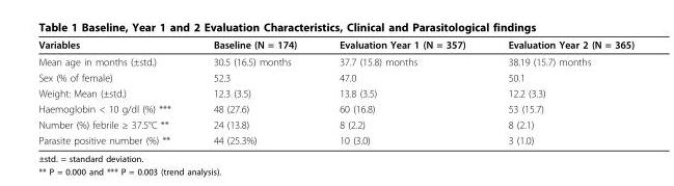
<table><thead><tr><td>Variables</td><td>Baseline (N = 174)</td><td>Evaluation Year 1 (N = 357)</td><td>Evaluation Year 2 (N = 365)</td></tr></thead><tbody><tr><td>Mean age in months (±std.)</td><td>30.5 (16.5) months</td><td>37.7 (15.8) months</td><td>38.19 (15.7) months</td></tr><tr><td>Sex (% of female)</td><td>52.3</td><td>47.0</td><td>50.1</td></tr><tr><td>Weight: Mean (±std.)</td><td>12.3 (3.5)</td><td>13.8 (3.5)</td><td>12.2 (3.3)</td></tr><tr><td>Haemoglobin &lt; 10 g/dl (%) ***</td><td>48 (27.6)</td><td>60 (16.8)</td><td>53 (15.7)</td></tr><tr><td>Number (%) febrile ≥ 37.5°C **</td><td>24 (13.8)</td><td>8 (2.2)</td><td>8 (2.1)</td></tr><tr><td>Parasite positive number (%) **</td><td>44 (25.3%)</td><td>10 (3.0)</td><td>3 (1.0)</td></tr></tbody></table>